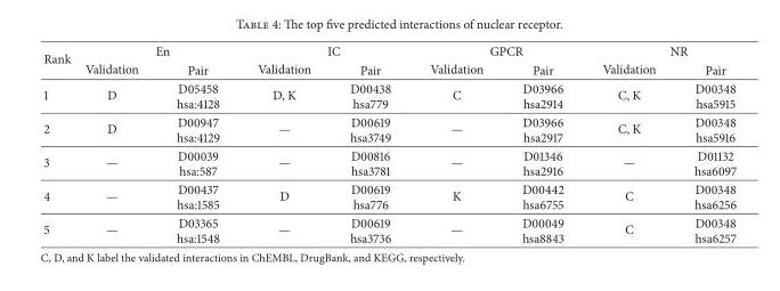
<table><thead><tr><td rowspan="2">Rank</td><td colspan="2">En</td><td colspan="2">IC</td><td colspan="2">GPCR</td><td colspan="2">NR</td></tr><tr><td>Validation</td><td>Pair</td><td>Validation</td><td>Pair</td><td>Validation</td><td>Pair</td><td>Validation</td><td>Pair</td></tr></thead><tbody><tr><td>1</td><td>D</td><td>D05458 hsa:4128</td><td>D, K</td><td>D00438 hsa779</td><td>C</td><td>D03966 hsa2914</td><td>C, K</td><td>D00348 hsa5915</td></tr><tr><td>2</td><td>D</td><td>D00947 hsa:4129</td><td>—</td><td>D00619 hsa3749</td><td>—</td><td>D03966 hsa2917</td><td>C, K</td><td>D00348 hsa5916</td></tr><tr><td>3</td><td>—</td><td>D00039 hsa:587</td><td>—</td><td>D00816 hsa3781</td><td>—</td><td>D01346 hsa2916</td><td>—</td><td>D01132 hsa6097</td></tr><tr><td>4</td><td>—</td><td>D00437 hsa:1585</td><td>D</td><td>D00619 hsa776</td><td>K</td><td>D00442 hsa6755</td><td>C</td><td>D00348 hsa6256</td></tr><tr><td>5</td><td>—</td><td>D03365 hsa:1548</td><td>—</td><td>D00619 hsa3736</td><td>—</td><td>D00049 hsa8843</td><td>C</td><td>D00348 hsa6257</td></tr></tbody></table>